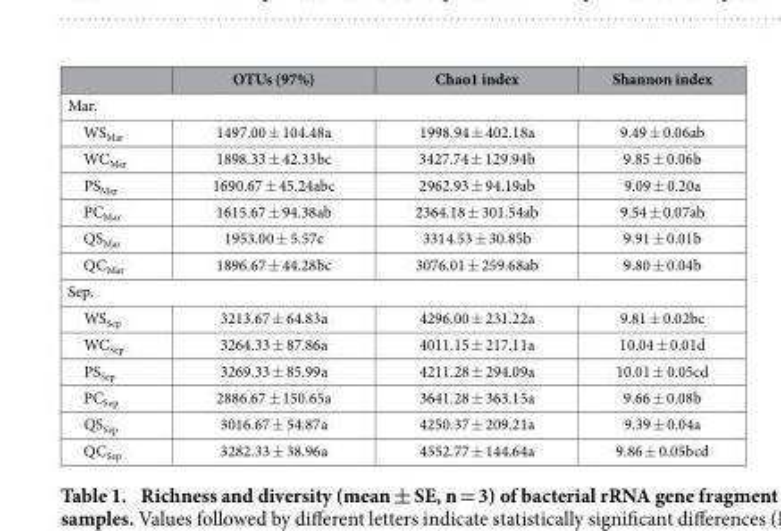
<table><thead><tr><td></td><td>OTUs (97%)</td><td>Chao1 index</td><td>Shannon index</td></tr></thead><tbody><tr><td colspan="4">Mar.</td></tr><tr><td>WS<sub>Mar</sub></td><td>1497.00 ± 104.48a</td><td>1998.94 ± 402.18a</td><td>9.49 ± 0.06ab</td></tr><tr><td>WC<sub>Mar</sub></td><td>1898.33 ± 42.33bc</td><td>3427.74 ± 129.94b</td><td>9.85 ± 0.06b</td></tr><tr><td>PS<sub>Mar</sub></td><td>1690.67 ± 45.24abc</td><td>2962.93 ± 94.19ab</td><td>9.09 ± 0.20a</td></tr><tr><td>PC<sub>Mar</sub></td><td>1615.67 ± 94.38ab</td><td>2364.18 ± 301.54ab</td><td>9.54 ± 0.07ab</td></tr><tr><td>QS<sub>Mar</sub></td><td>1953.00 ± 5.57c</td><td>3314.53 ± 30.85b</td><td>9.91 ± 0.01b</td></tr><tr><td>QC<sub>Mar</sub></td><td>1896.67 ± 44.28bc</td><td>3076.01 ± 259.68ab</td><td>9.80 ± 0.04b</td></tr><tr><td colspan="4">Sep.</td></tr><tr><td>WS<sub>Sep</sub></td><td>3213.67 ± 64.83a</td><td>4296.00 ± 231.22a</td><td>9.81 ± 0.02bc</td></tr><tr><td>WC<sub>Sep</sub></td><td>3264.33 ± 87.86a</td><td>4011.15 ± 217.11a</td><td>10.04 ± 0.01d</td></tr><tr><td>PS<sub>Sep</sub></td><td>3269.33 ± 85.99a</td><td>4211.28 ± 294.09a</td><td>10.01 ± 0.05cd</td></tr><tr><td>PC<sub>Sep</sub></td><td>2886.67 ± 150.65a</td><td>3641.28 ± 363.15a</td><td>9.66 ± 0.08b</td></tr><tr><td>QS<sub>Sep</sub></td><td>3016.67 ± 54.87a</td><td>4250.37 ± 209.21a</td><td>9.39 ± 0.04a</td></tr><tr><td>QC<sub>Sep</sub></td><td>3282.33 ± 38.96a</td><td>4552.77 ± 144.64a</td><td>9.86 ± 0.05bcd</td></tr></tbody></table>